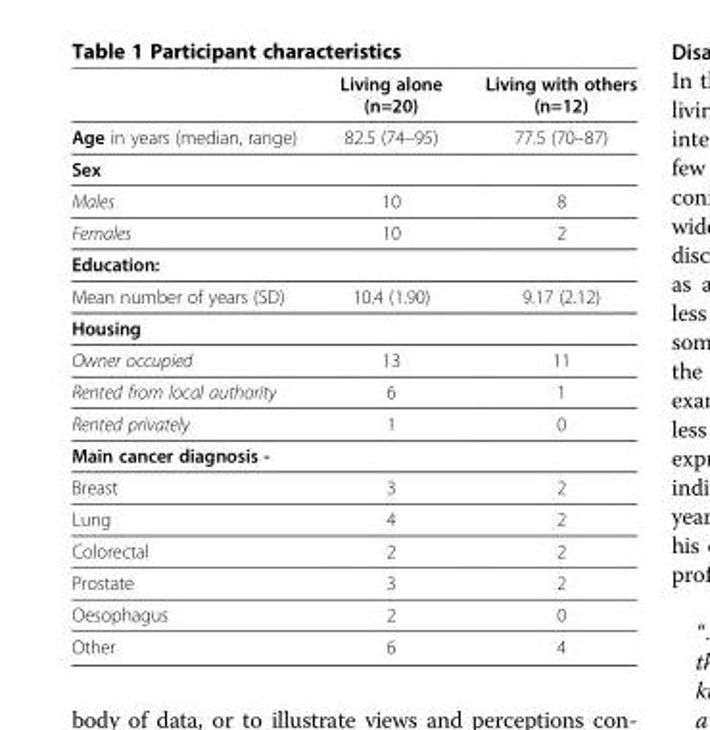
<table><thead><tr><td></td><td>Living alone (n=20)</td><td>Living with others (n=12)</td></tr></thead><tbody><tr><td>Age in years (median, range)</td><td>82.5 (74–95)</td><td>77.5 (70–87)</td></tr><tr><td colspan="3">Sex</td></tr><tr><td>Males</td><td>10</td><td>8</td></tr><tr><td>Females</td><td>10</td><td>2</td></tr><tr><td colspan="3">Education:</td></tr><tr><td>Mean number of years (SD)</td><td>10.4 (1.90)</td><td>9.17 (2.12)</td></tr><tr><td colspan="3">Housing</td></tr><tr><td>Owner occupied</td><td>13</td><td>11</td></tr><tr><td>Rented from local authority</td><td>6</td><td>1</td></tr><tr><td>Rented privately</td><td>1</td><td>0</td></tr><tr><td colspan="3">Main cancer diagnosis -</td></tr><tr><td>Breast</td><td>3</td><td>2</td></tr><tr><td>Lung</td><td>4</td><td>2</td></tr><tr><td>Colorectal</td><td>2</td><td>2</td></tr><tr><td>Prostate</td><td>3</td><td>2</td></tr><tr><td>Oesophagus</td><td>2</td><td>0</td></tr><tr><td>Other</td><td>6</td><td>4</td></tr></tbody></table>